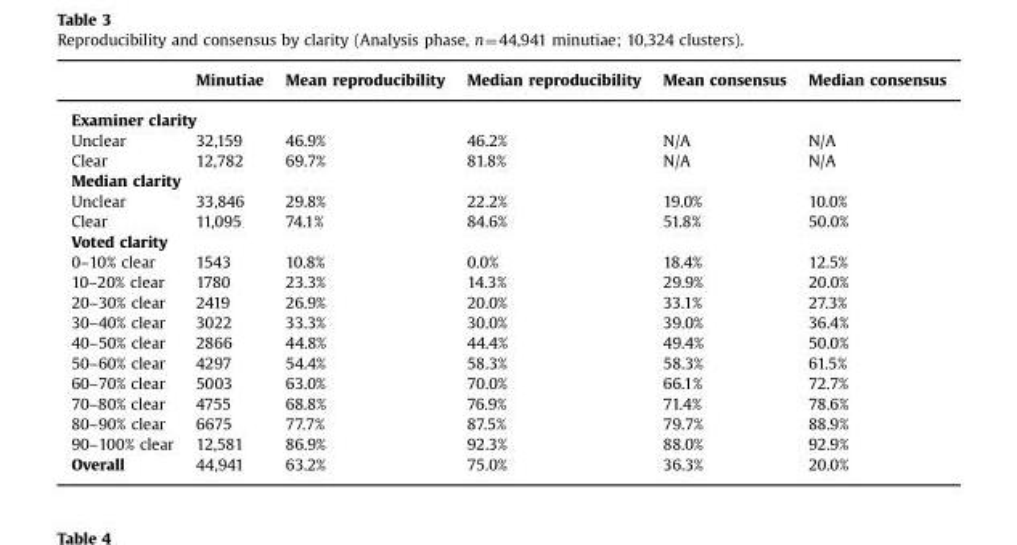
<table><thead><tr><td></td><td>Minutiae</td><td>Mean reproducibility</td><td>Median reproducibility</td><td>Mean consensus</td><td>Median consensus</td></tr></thead><tbody><tr><td colspan="6">Examiner clarity</td></tr><tr><td>Unclear</td><td>32,159</td><td>46.9%</td><td>46.2%</td><td>N/A</td><td>N/A</td></tr><tr><td>Clear</td><td>12,782</td><td>69.7%</td><td>81.8%</td><td>N/A</td><td>N/A</td></tr><tr><td colspan="6">Median clarity</td></tr><tr><td>Unclear</td><td>33,846</td><td>29.8%</td><td>22.2%</td><td>19.0%</td><td>10.0%</td></tr><tr><td>Clear</td><td>11,095</td><td>74.1%</td><td>84.6%</td><td>51.8%</td><td>50.0%</td></tr><tr><td colspan="6">Voted clarity</td></tr><tr><td>0–10% clear</td><td>1543</td><td>10.8%</td><td>0.0%</td><td>18.4%</td><td>12.5%</td></tr><tr><td>10–20% clear</td><td>1780</td><td>23.3%</td><td>14.3%</td><td>29.9%</td><td>20.0%</td></tr><tr><td>20–30% clear</td><td>2419</td><td>26.9%</td><td>20.0%</td><td>33.1%</td><td>27.3%</td></tr><tr><td>30–40% clear</td><td>3022</td><td>33.3%</td><td>30.0%</td><td>39.0%</td><td>36.4%</td></tr><tr><td>40–50% clear</td><td>2866</td><td>44.8%</td><td>44.4%</td><td>49.4%</td><td>50.0%</td></tr><tr><td>50–60% clear</td><td>4297</td><td>54.4%</td><td>58.3%</td><td>58.3%</td><td>61.5%</td></tr><tr><td>60–70% clear</td><td>5003</td><td>63.0%</td><td>70.0%</td><td>66.1%</td><td>72.7%</td></tr><tr><td>70–80% clear</td><td>4755</td><td>68.8%</td><td>76.9%</td><td>71.4%</td><td>78.6%</td></tr><tr><td>80–90% clear</td><td>6675</td><td>77.7%</td><td>87.5%</td><td>79.7%</td><td>88.9%</td></tr><tr><td>90–100% clear</td><td>12,581</td><td>86.9%</td><td>92.3%</td><td>88.0%</td><td>92.9%</td></tr><tr><td>Overall</td><td>44,941</td><td>63.2%</td><td>75.0%</td><td>36.3%</td><td>20.0%</td></tr></tbody></table>